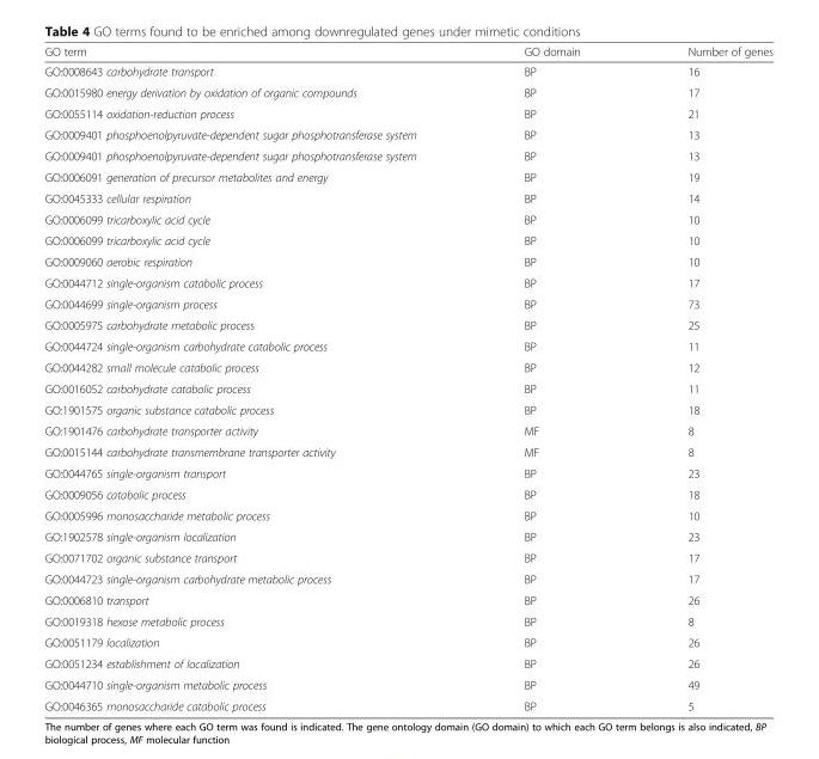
<table><thead><tr><td>GO term</td><td>GO domain</td><td>Number of genes</td></tr></thead><tbody><tr><td>GO:0008643 carbohydrate transport</td><td>BP</td><td>16</td></tr><tr><td>GO:0015980 energy derivation by oxidation of organic compounds</td><td>BP</td><td>17</td></tr><tr><td>GO:0055114 oxidation-reduction process</td><td>BP</td><td>21</td></tr><tr><td>GO:0009401 phosphoenolpyruvate-dependent sugar phosphotransferase system</td><td>BP</td><td>13</td></tr><tr><td>GO:0009401 phosphoenolpyruvate-dependent sugar phosphotransferase system</td><td>BP</td><td>13</td></tr><tr><td>GO:0006091 generation of precursor metabolites and energy</td><td>BP</td><td>19</td></tr><tr><td>GO:0045333 cellular respiration</td><td>BP</td><td>14</td></tr><tr><td>GO:0006099 tricarboxylic acid cycle</td><td>BP</td><td>10</td></tr><tr><td>GO:0006099 tricarboxylic acid cycle</td><td>BP</td><td>10</td></tr><tr><td>GO:0009060 aerobic respiration</td><td>BP</td><td>10</td></tr><tr><td>GO:0044712 single-organism catabolic process</td><td>BP</td><td>17</td></tr><tr><td>GO:0044699 single-organism process</td><td>BP</td><td>73</td></tr><tr><td>GO:0005975 carbohydrate metabolic process</td><td>BP</td><td>25</td></tr><tr><td>GO:0044724 single-organism carbohydrate catabolic process</td><td>BP</td><td>11</td></tr><tr><td>GO:0044282 small molecule catabolic process</td><td>BP</td><td>12</td></tr><tr><td>GO:0016052 carbohydrate catabolic process</td><td>BP</td><td>11</td></tr><tr><td>GO:1901575 organic substance catabolic process</td><td>BP</td><td>18</td></tr><tr><td>GO:1901476 carbohydrate transporter activity</td><td>MF</td><td>8</td></tr><tr><td>GO:0015144 carbohydrate transmembrane transporter activity</td><td>MF</td><td>8</td></tr><tr><td>GO:0044765 single-organism transport</td><td>BP</td><td>23</td></tr><tr><td>GO:0009056 catabolic process</td><td>BP</td><td>18</td></tr><tr><td>GO:0005996 monosaccharide metabolic process</td><td>BP</td><td>10</td></tr><tr><td>GO:1902578 single-organism localization</td><td>BP</td><td>23</td></tr><tr><td>GO:0071702 organic substance transport</td><td>BP</td><td>17</td></tr><tr><td>GO:0044723 single-organism carbohydrate metabolic process</td><td>BP</td><td>17</td></tr><tr><td>GO:0006810 transport</td><td>BP</td><td>26</td></tr><tr><td>GO:0019318 hexose metabolic process</td><td>BP</td><td>8</td></tr><tr><td>GO:0051179 localization</td><td>BP</td><td>26</td></tr><tr><td>GO:0051234 establishment of localization</td><td>BP</td><td>26</td></tr><tr><td>GO:0044710 single-organism metabolic process</td><td>BP</td><td>49</td></tr><tr><td>GO:0046365 monosaccharide catabolic process</td><td>BP</td><td>5</td></tr></tbody></table>